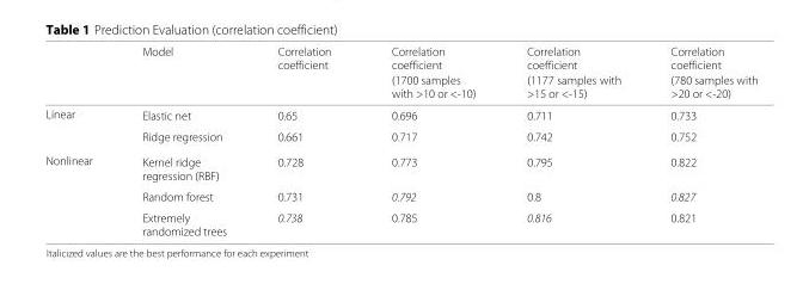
<table><thead><tr><td rowspan="2"></td><td rowspan="2">Model</td><td rowspan="2">Correlation coefficient</td><td rowspan="2">Correlation coefficient (1700 samples with &gt;10 or &lt;-10)</td><td rowspan="2">Correlation coefficient (1177 samples with &gt;15 or &lt;-15)</td><td rowspan="2">Correlation coefficient (780 samples with &gt;20 or &lt;-20)</td></tr><tr></tr></thead><tbody><tr><td rowspan="2">Linear</td><td>Elastic net</td><td>0.65</td><td>0.696</td><td>0.711</td><td>0.733</td></tr><tr><td>Ridge regression</td><td>0.661</td><td>0.717</td><td>0.742</td><td>0.752</td></tr><tr><td rowspan="3">Nonlinear</td><td>Kernel ridge regression (RBF)</td><td>0.728</td><td>0.773</td><td>0.795</td><td>0.822</td></tr><tr><td>Random forest</td><td>0.731</td><td>0.792</td><td>0.8</td><td>0.827</td></tr><tr><td>Extremely randomized trees</td><td>0.738</td><td>0.785</td><td>0.816</td><td>0.821</td></tr></tbody></table>